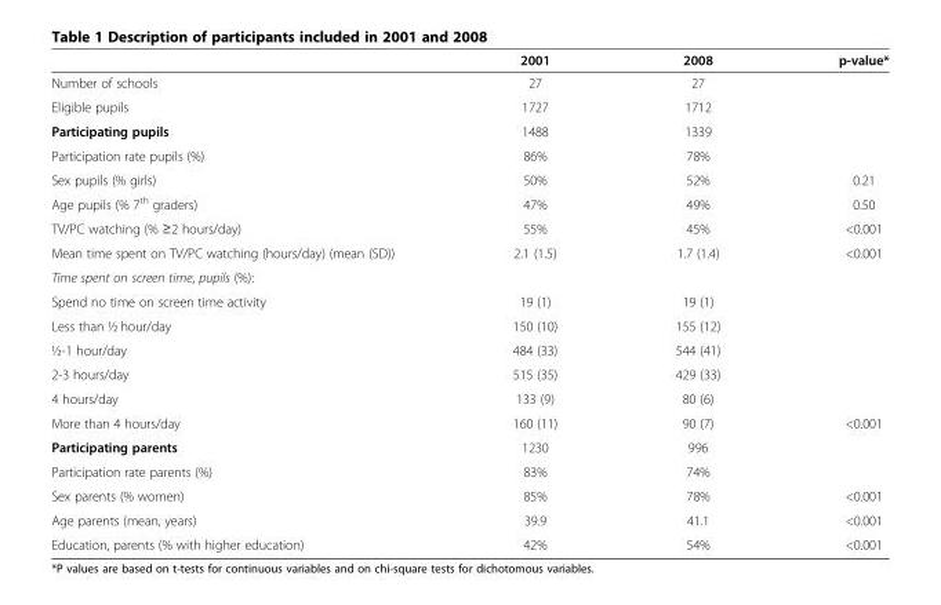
<table><thead><tr><td></td><td>2001</td><td>2008</td><td>p-value*</td></tr></thead><tbody><tr><td>Number of schools</td><td>27</td><td>27</td><td></td></tr><tr><td>Eligible pupils</td><td>1727</td><td>1712</td><td></td></tr><tr><td>Participating pupils</td><td>1488</td><td>1339</td><td></td></tr><tr><td>Participation rate pupils (%)</td><td>86%</td><td>78%</td><td></td></tr><tr><td>Sex pupils (% girls)</td><td>50%</td><td>52%</td><td>0.21</td></tr><tr><td>Age pupils (% 7<sup>th</sup> graders)</td><td>47%</td><td>49%</td><td>0.50</td></tr><tr><td>TV/PC watching (% ≥2 hours/day)</td><td>55%</td><td>45%</td><td>&lt;0.001</td></tr><tr><td>Mean time spent on TV/PC watching (hours/day) (mean (SD))</td><td>2.1 (1.5)</td><td>1.7 (1.4)</td><td>&lt;0.001</td></tr><tr><td colspan="4">Time spent on screen time, pupils (%):</td></tr><tr><td>Spend no time on screen time activity</td><td>19 (1)</td><td>19 (1)</td><td></td></tr><tr><td>Less than ½ hour/day</td><td>150 (10)</td><td>155 (12)</td><td></td></tr><tr><td>½-1 hour/day</td><td>484 (33)</td><td>544 (41)</td><td></td></tr><tr><td>2-3 hours/day</td><td>515 (35)</td><td>429 (33)</td><td></td></tr><tr><td>4 hours/day</td><td>133 (9)</td><td>80 (6)</td><td></td></tr><tr><td>More than 4 hours/day</td><td>160 (11)</td><td>90 (7)</td><td>&lt;0.001</td></tr><tr><td>Participating parents</td><td>1230</td><td>996</td><td></td></tr><tr><td>Participation rate parents (%)</td><td>83%</td><td>74%</td><td></td></tr><tr><td>Sex parents (% women)</td><td>85%</td><td>78%</td><td>&lt;0.001</td></tr><tr><td>Age parents (mean, years)</td><td>39.9</td><td>41.1</td><td>&lt;0.001</td></tr><tr><td>Education, parents (% with higher education)</td><td>42%</td><td>54%</td><td>&lt;0.001</td></tr></tbody></table>